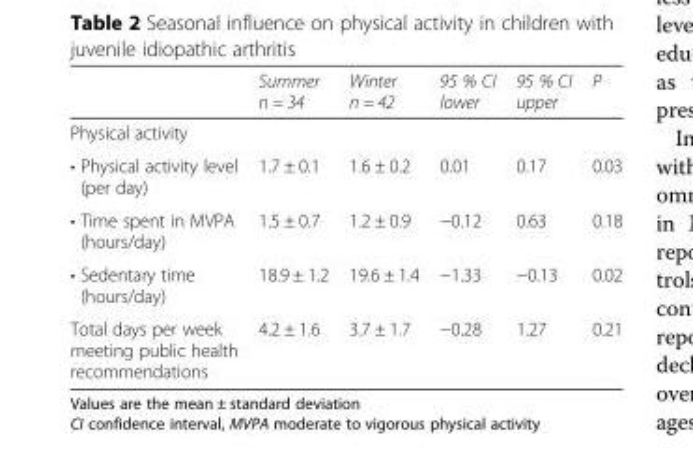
<table><thead><tr><td></td><td>Summer n = 34</td><td>Winter n = 42</td><td>95 % CI lower</td><td>95 % CI upper</td><td>P</td></tr></thead><tbody><tr><td colspan="6">Physical activity</td></tr><tr><td>• Physical activity level (per day)</td><td>1.7 ± 0.1</td><td>1.6 ± 0.2</td><td>0.01</td><td>0.17</td><td>0.03</td></tr><tr><td>• Time spent in MVPA (hours/day)</td><td>1.5 ± 0.7</td><td>1.2 ± 0.9</td><td>−0.12</td><td>0.63</td><td>0.18</td></tr><tr><td>• Sedentary time (hours/day)</td><td>18.9 ± 1.2</td><td>19.6 ± 1.4</td><td>−1.33</td><td>−0.13</td><td>0.02</td></tr><tr><td>Total days per week meeting public health recommendations</td><td>4.2 ± 1.6</td><td>3.7 ± 1.7</td><td>−0.28</td><td>1.27</td><td>0.21</td></tr></tbody></table>